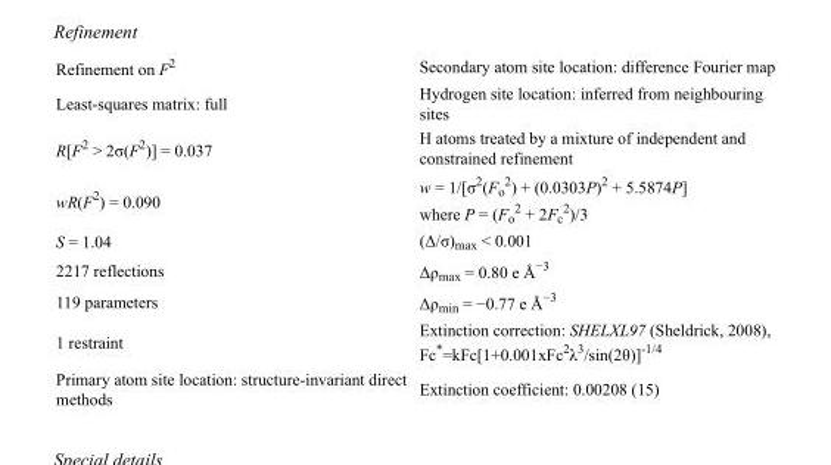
<table><tbody><tr><td>Refinement on F<sup>2</sup></td><td>Secondary atom site location: difference Fourier map</td></tr><tr><td>Least-squares matrix: full</td><td>Hydrogen site location: inferred from neighbouring sites</td></tr><tr><td>R[F<sup>2</sup> &gt; 2σ(F<sup>2</sup>)] = 0.037</td><td>H atoms treated by a mixture of independent and constrained refinement</td></tr><tr><td>wR(F<sup>2</sup>) = 0.090</td><td>w = 1/[σ<sup>2</sup>(F<sub>o</sub> <sup>2</sup>) + (0.0303P)<sup>2</sup> + 5.5874P] where P = (F<sub>o</sub> <sup>2</sup> + 2F<sub>c</sub> <sup>2</sup>)/3</td></tr><tr><td>S = 1.04</td><td>(Δ/σ)<sub>max</sub> &lt; 0.001</td></tr><tr><td>2217 reflections</td><td>Δρ<sub>max</sub> = 0.80 e Å<sup>−3</sup></td></tr><tr><td>119 parameters</td><td>Δρ<sub>min</sub> = −0.77 e Å<sup>−3</sup></td></tr><tr><td>1 restraint</td><td>Extinction correction: SHELXL97 (Sheldrick, 2008), Fc*=kFc[1+0.001xFc<sup>2</sup>λ<sup>3</sup>/sin(2θ)]<sup>-1/4</sup></td></tr><tr><td>Primary atom site location: structure-invariant direct methods</td><td>Extinction coefficient: 0.00208 (15)</td></tr></tbody></table>